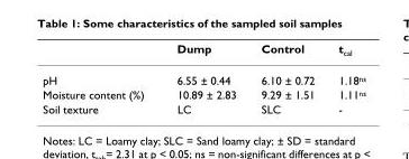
<table><thead><tr><td></td><td>Dump</td><td>Control</td><td>t<sub>cal</sub></td></tr></thead><tbody><tr><td>pH</td><td>6.55 ± 0.44</td><td>6.10 ± 0.72</td><td>1.18<sup>ns</sup></td></tr><tr><td>Moisture content (%)</td><td>10.89 ± 2.83</td><td>9.29 ± 1.51</td><td>1.11<sup>ns</sup></td></tr><tr><td>Soil texture</td><td>LC</td><td>SLC</td><td>-</td></tr></tbody></table>